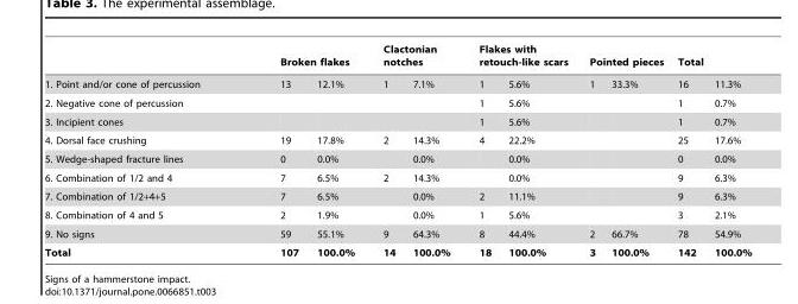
<table><thead><tr><td rowspan="2">1. Point and/or cone of percussion</td><td colspan="2">Broken flakes</td><td colspan="2">Clactonian notches</td><td colspan="2">Flakes with retouch-like scars</td><td colspan="2">Pointed pieces</td><td colspan="2">Total</td></tr><tr><td>13</td><td>12.1%</td><td>1</td><td>7.1%</td><td>1</td><td>5.6%</td><td>1</td><td>33.3%</td><td>16</td><td>11.3%</td></tr></thead><tbody><tr><td>2. Negative cone of percussion</td><td></td><td></td><td></td><td></td><td>1</td><td>5.6%</td><td></td><td></td><td>1</td><td>0.7%</td></tr><tr><td>3. Incipient cones</td><td></td><td></td><td></td><td></td><td>1</td><td>5.6%</td><td></td><td></td><td>1</td><td>0.7%</td></tr><tr><td>4. Dorsal face crushing</td><td>19</td><td>17.8%</td><td>2</td><td>14.3%</td><td>4</td><td>22.2%</td><td></td><td></td><td>25</td><td>17.6%</td></tr><tr><td>5. Wedge-shaped fracture lines</td><td>0</td><td>0.0%</td><td></td><td>0.0%</td><td></td><td>0.0%</td><td></td><td></td><td>0</td><td>0.0%</td></tr><tr><td>6. Combination of 1/2 and 4</td><td>7</td><td>6.5%</td><td>2</td><td>14.3%</td><td></td><td>0.0%</td><td></td><td></td><td>9</td><td>6.3%</td></tr><tr><td>7. Combination of 1/2+4+5</td><td>7</td><td>6.5%</td><td></td><td>0.0%</td><td>2</td><td>11.1%</td><td></td><td></td><td>9</td><td>6.3%</td></tr><tr><td>8. Combination of 4 and 5</td><td>2</td><td>1.9%</td><td></td><td>0.0%</td><td>1</td><td>5.6%</td><td></td><td></td><td>3</td><td>2.1%</td></tr><tr><td>9. No signs</td><td>59</td><td>55.1%</td><td>9</td><td>64.3%</td><td>8</td><td>44.4%</td><td>2</td><td>66.7%</td><td>78</td><td>54.9%</td></tr><tr><td>Total</td><td>107</td><td>100.0%</td><td>14</td><td>100.0%</td><td>18</td><td>100.0%</td><td>3</td><td>100.0%</td><td>142</td><td>100.0%</td></tr></tbody></table>